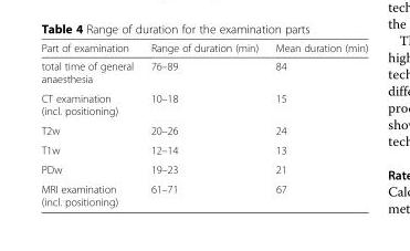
<table><thead><tr><td>Part of examination</td><td>Range of duration (min)</td><td>Mean duration (min)</td></tr></thead><tbody><tr><td>total time of general anaesthesia</td><td>76–89</td><td>84</td></tr><tr><td>CT examination (incl. positioning)</td><td>10–18</td><td>15</td></tr><tr><td>T2w</td><td>20–26</td><td>24</td></tr><tr><td>T1w</td><td>12–14</td><td>13</td></tr><tr><td>PDw</td><td>19–23</td><td>21</td></tr><tr><td>MRI examination (incl. positioning)</td><td>61–71</td><td>67</td></tr></tbody></table>